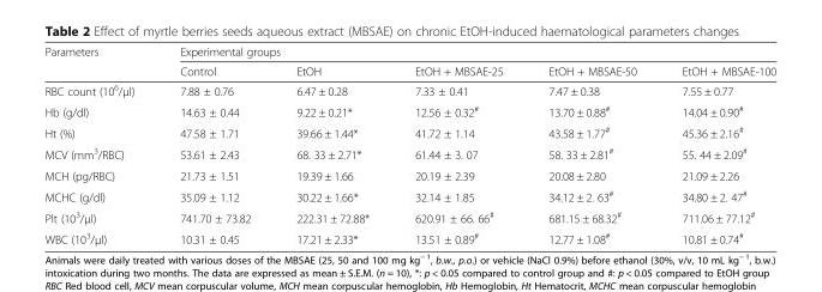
<table><thead><tr><td rowspan="2">Parameters</td><td colspan="5">Experimental groups</td></tr><tr><td>Control</td><td>EtOH</td><td>EtOH + MBSAE-25</td><td>EtOH + MBSAE-50</td><td>EtOH + MBSAE-100</td></tr></thead><tbody><tr><td>RBC count (10<sup>6</sup>/μl)</td><td>7.88 ± 0.76</td><td>6.47 ± 0.28</td><td>7.33 ± 0.41</td><td>7.47 ± 0.38</td><td>7.55 ± 0.77</td></tr><tr><td>Hb (g/dl)</td><td>14.63 ± 0.44</td><td>9.22 ± 0.21*</td><td>12.56 ± 0.32<sup>#</sup></td><td>13.70 ± 0.88<sup>#</sup></td><td>14.04 ± 0.90<sup>#</sup></td></tr><tr><td>Ht (%)</td><td>47.58 ± 1.71</td><td>39.66 ± 1.44*</td><td>41.72 ± 1.14</td><td>43.58 ± 1.77<sup>#</sup></td><td>45.36 ± 2.16<sup>#</sup></td></tr><tr><td>MCV (mm<sup>3</sup>/RBC)</td><td>53.61 ± 2.43</td><td>68. 33 ± 2.71*</td><td>61.44 ± 3. 07</td><td>58. 33 ± 2.81<sup>#</sup></td><td>55. 44 ± 2.09<sup>#</sup></td></tr><tr><td>MCH (pg/RBC)</td><td>21.73 ± 1.51</td><td>19.39 ± 1.66</td><td>20.19 ± 2.39</td><td>20.08 ± 2.80</td><td>21.09 ± 2.26</td></tr><tr><td>MCHC (g/dl)</td><td>35.09 ± 1.12</td><td>30.22 ± 1.66*</td><td>32.14 ± 1.85</td><td>34.12 ± 2. 63<sup>#</sup></td><td>34.80 ± 2. 47<sup>#</sup></td></tr><tr><td>Plt (10<sup>3</sup>/μl)</td><td>741.70 ± 73.82</td><td>222.31 ± 72.88*</td><td>620.91 ± 66. 66<sup>#</sup></td><td>681.15 ± 68.32<sup>#</sup></td><td>711.06 ± 77.12<sup>#</sup></td></tr><tr><td>WBC (10<sup>3</sup>/μl)</td><td>10.31 ± 0.45</td><td>17.21 ± 2.33*</td><td>13.51 ± 0.89<sup>#</sup></td><td>12.77 ± 1.08<sup>#</sup></td><td>10.81 ± 0.74<sup>#</sup></td></tr></tbody></table>